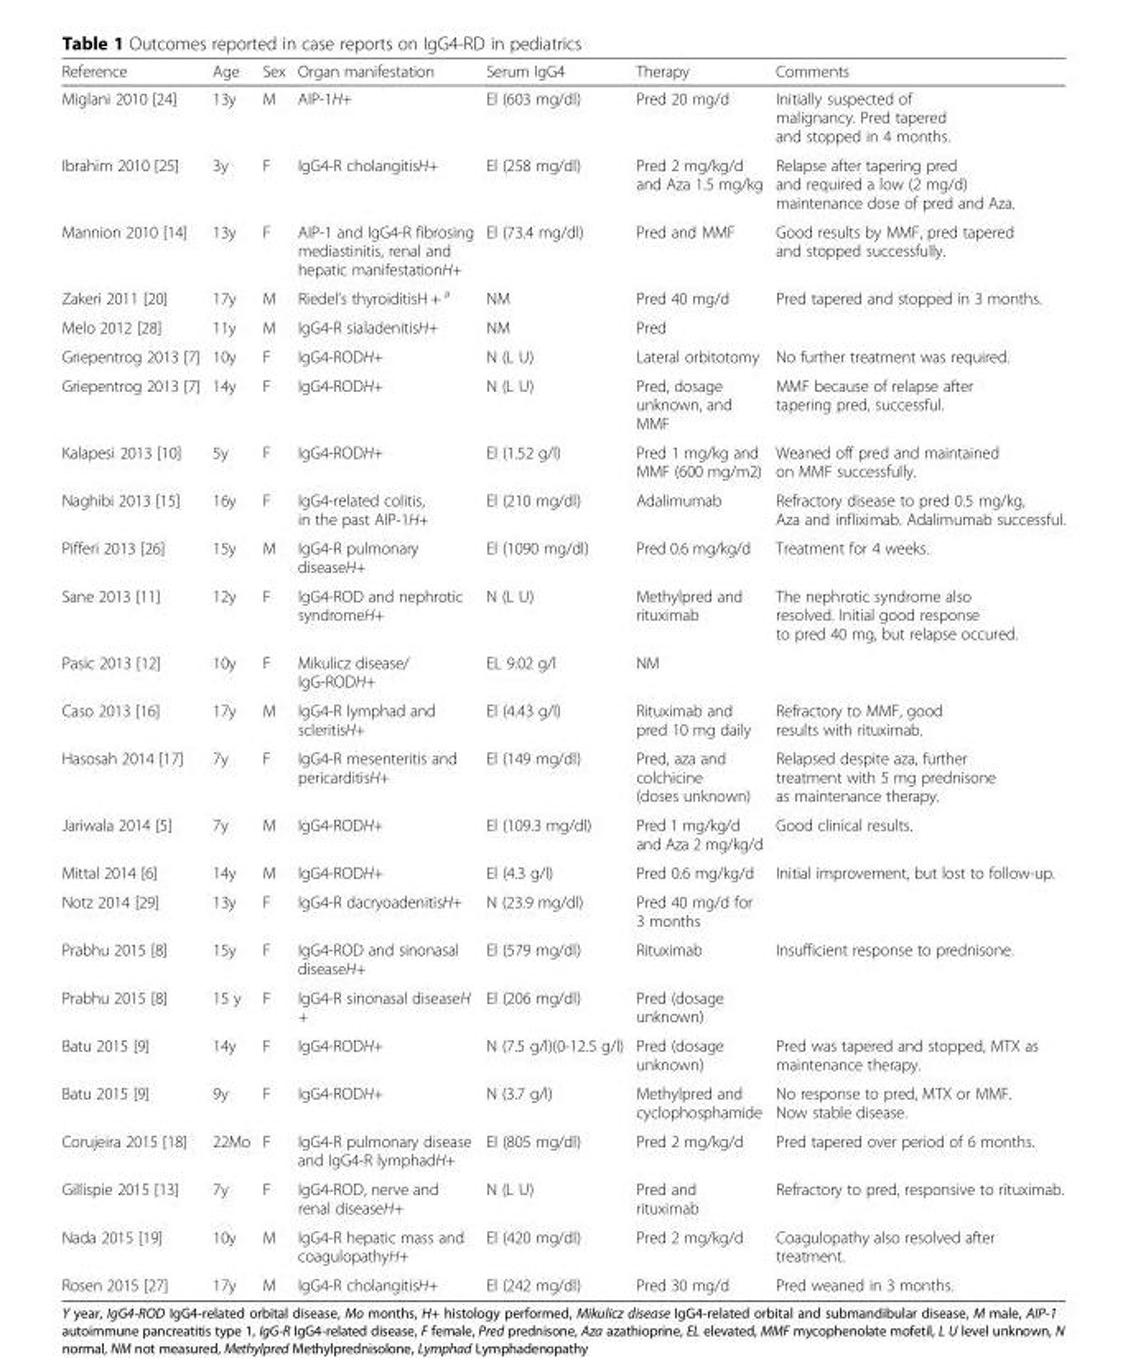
<table><thead><tr><td>Reference</td><td>Age</td><td>Sex</td><td>Organ manifestation</td><td>Serum IgG4</td><td>Therapy</td><td>Comments</td></tr></thead><tbody><tr><td>Miglani 2010 [24]</td><td>13y</td><td>M</td><td>AIP-1H+</td><td>El (603 mg/dl)</td><td>Pred 20 mg/d</td><td>Initially suspected of malignancy. Pred tapered and stopped in 4 months.</td></tr><tr><td>Ibrahim 2010 [25]</td><td>3y</td><td>F</td><td>IgG4-R cholangitisH+</td><td>El (258 mg/dl)</td><td>Pred 2 mg/kg/d and Aza 1.5 mg/kg</td><td>Relapse after tapering pred and required a low (2 mg/d) maintenance dose of pred and Aza.</td></tr><tr><td>Mannion 2010 [14]</td><td>13y</td><td>F</td><td>AIP-1 and IgG4-R fibrosing mediastinitis, renal and hepatic manifestationH+</td><td>El (73.4 mg/dl)</td><td>Pred and MMF</td><td>Good results by MMF, pred tapered and stopped successfully.</td></tr><tr><td>Zakeri 2011 [20]</td><td>17y</td><td>M</td><td>Riedel’s thyroiditisH + <sup>a</sup></td><td>NM</td><td>Pred 40 mg/d</td><td>Pred tapered and stopped in 3 months.</td></tr><tr><td>Melo 2012 [28]</td><td>11y</td><td>M</td><td>IgG4-R sialadenitisH+</td><td>NM</td><td>Pred</td><td></td></tr><tr><td>Griepentrog 2013 [7]</td><td>10y</td><td>F</td><td>IgG4-RODH+</td><td>N (L U)</td><td>Lateral orbitotomy</td><td>No further treatment was required.</td></tr><tr><td>Griepentrog 2013 [7]</td><td>14y</td><td>F</td><td>IgG4-RODH+</td><td>N (L U)</td><td>Pred, dosage unknown, and MMF</td><td>MMF because of relapse after tapering pred, successful.</td></tr><tr><td>Kalapesi 2013 [10]</td><td>5y</td><td>F</td><td>IgG4-RODH+</td><td>El (1.52 g/l)</td><td>Pred 1 mg/kg and MMF (600 mg/m2)</td><td>Weaned off pred and maintained on MMF successfully.</td></tr><tr><td>Naghibi 2013 [15]</td><td>16y</td><td>F</td><td>IgG4-related colitis, in the past AIP-1H+</td><td>El (210 mg/dl)</td><td>Adalimumab</td><td>Refractory disease to pred 0.5 mg/kg, Aza and infliximab. Adalimumab successful.</td></tr><tr><td>Pifferi 2013 [26]</td><td>15y</td><td>M</td><td>IgG4-R pulmonary diseaseH+</td><td>El (1090 mg/dl)</td><td>Pred 0.6 mg/kg/d</td><td>Treatment for 4 weeks.</td></tr><tr><td>Sane 2013 [11]</td><td>12y</td><td>F</td><td>IgG4-ROD and nephrotic syndromeH+</td><td>N (L U)</td><td>Methylpred and rituximab</td><td>The nephrotic syndrome also resolved. Initial good response to pred 40 mg, but relapse occured.</td></tr><tr><td>Pasic 2013 [12]</td><td>10y</td><td>F</td><td>Mikulicz disease/ IgG-RODH+</td><td>EL 9.02 g/l</td><td>NM</td><td></td></tr><tr><td>Caso 2013 [16]</td><td>17y</td><td>M</td><td>IgG4-R lymphad and scleritisH+</td><td>El (4.43 g/l)</td><td>Rituximab and pred 10 mg daily</td><td>Refractory to MMF, good results with rituximab.</td></tr><tr><td>Hasosah 2014 [17]</td><td>7y</td><td>F</td><td>IgG4-R mesenteritis and pericarditisH+</td><td>El (149 mg/dl)</td><td>Pred, aza and colchicine (doses unknown)</td><td>Relapsed despite aza, further treatment with 5 mg prednisone as maintenance therapy.</td></tr><tr><td>Jariwala 2014 [5]</td><td>7y</td><td>M</td><td>IgG4-RODH+</td><td>El (109.3 mg/dl)</td><td>Pred 1 mg/kg/d and Aza 2 mg/kg/d</td><td>Good clinical results.</td></tr><tr><td>Mittal 2014 [6]</td><td>14y</td><td>M</td><td>IgG4-RODH+</td><td>El (4.3 g/l)</td><td>Pred 0.6 mg/kg/d</td><td>Initial improvement, but lost to follow-up.</td></tr><tr><td>Notz 2014 [29]</td><td>13y</td><td>F</td><td>IgG4-R dacryoadenitisH+</td><td>N (23.9 mg/dl)</td><td>Pred 40 mg/d for 3 months</td><td></td></tr><tr><td>Prabhu 2015 [8]</td><td>15y</td><td>F</td><td>IgG4-ROD and sinonasal diseaseH+</td><td>El (579 mg/dl)</td><td>Rituximab</td><td>Insufficient response to prednisone.</td></tr><tr><td>Prabhu 2015 [8]</td><td>15 y</td><td>F</td><td>IgG4-R sinonasal diseaseH +</td><td>El (206 mg/dl)</td><td>Pred (dosage unknown)</td><td></td></tr><tr><td>Batu 2015 [9]</td><td>14y</td><td>F</td><td>IgG4-RODH+</td><td>N (7.5 g/l)(0-12.5 g/l)</td><td>Pred (dosage unknown)</td><td>Pred was tapered and stopped, MTX as maintenance therapy.</td></tr><tr><td>Batu 2015 [9]</td><td>9y</td><td>F</td><td>IgG4-RODH+</td><td>N (3.7 g/l)</td><td>Methylpred and cyclophosphamide</td><td>No response to pred, MTX or MMF. Now stable disease.</td></tr><tr><td>Corujeira 2015 [18]</td><td>22Mo</td><td>F</td><td>IgG4-R pulmonary disease and IgG4-R lymphadH+</td><td>El (805 mg/dl)</td><td>Pred 2 mg/kg/d</td><td>Pred tapered over period of 6 months.</td></tr><tr><td>Gillispie 2015 [13]</td><td>7y</td><td>F</td><td>IgG4-ROD, nerve and renal diseaseH+</td><td>N (L U)</td><td>Pred and rituximab</td><td>Refractory to pred, responsive to rituximab.</td></tr><tr><td>Nada 2015 [19]</td><td>10y</td><td>M</td><td>IgG4-R hepatic mass and coagulopathyH+</td><td>El (420 mg/dl)</td><td>Pred 2 mg/kg/d</td><td>Coagulopathy also resolved after treatment.</td></tr><tr><td>Rosen 2015 [27]</td><td>17y</td><td>M</td><td>IgG4-R cholangitisH+</td><td>El (242 mg/dl)</td><td>Pred 30 mg/d</td><td>Pred weaned in 3 months.</td></tr></tbody></table>